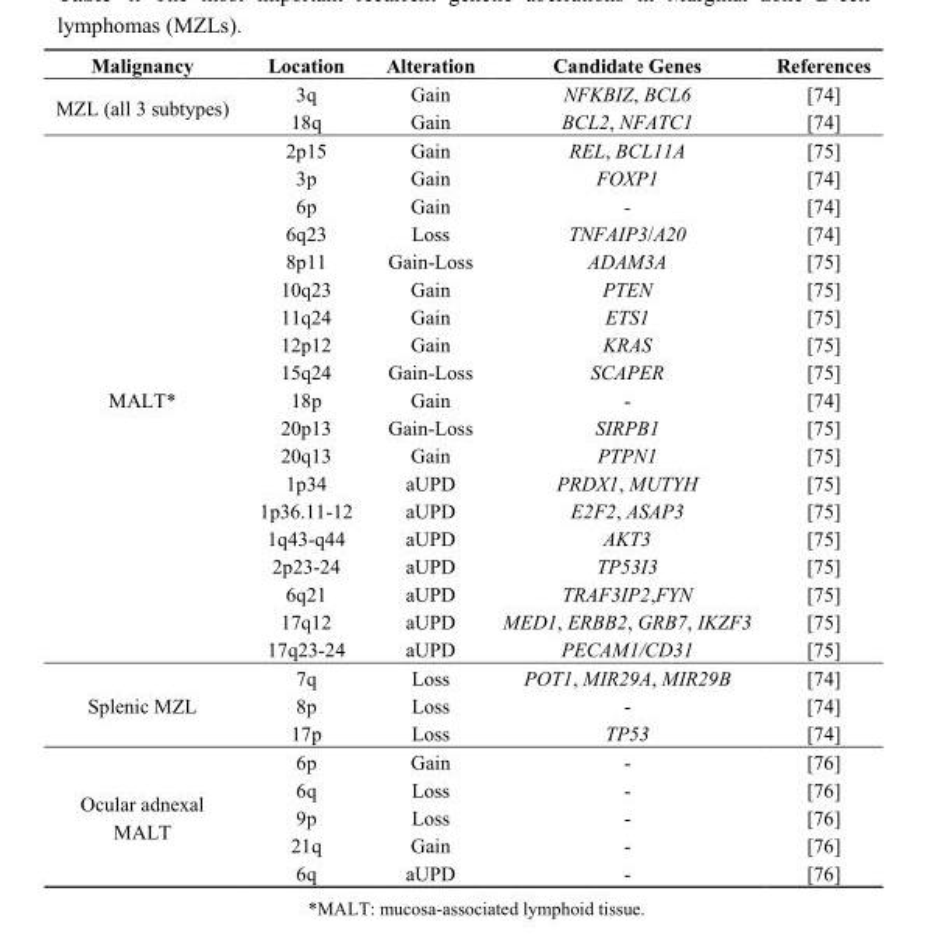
<table><thead><tr><td>Malignancy</td><td>Location</td><td>Alteration</td><td>Candidate Genes</td><td>References</td></tr></thead><tbody><tr><td rowspan="2">MZL (all 3 subtypes)</td><td>3q</td><td>Gain</td><td>NFKBIZ, BCL6</td><td>[74]</td></tr><tr><td>18q</td><td>Gain</td><td>BCL2, NFATC1</td><td>[74]</td></tr><tr><td rowspan="19">MALT*</td><td>2p15</td><td>Gain</td><td>REL, BCL11A</td><td>[75]</td></tr><tr><td>3p</td><td>Gain</td><td>FOXP1</td><td>[74]</td></tr><tr><td>6p</td><td>Gain</td><td>-</td><td>[74]</td></tr><tr><td>6q23</td><td>Loss</td><td>TNFAIP3/A20</td><td>[74]</td></tr><tr><td>8p11</td><td>Gain-Loss</td><td>ADAM3A</td><td>[75]</td></tr><tr><td>10q23</td><td>Gain</td><td>PTEN</td><td>[75]</td></tr><tr><td>11q24</td><td>Gain</td><td>ETS1</td><td>[75]</td></tr><tr><td>12p12</td><td>Gain</td><td>KRAS</td><td>[75]</td></tr><tr><td>15q24</td><td>Gain-Loss</td><td>SCAPER</td><td>[75]</td></tr><tr><td>18p</td><td>Gain</td><td>-</td><td>[74]</td></tr><tr><td>20p13</td><td>Gain-Loss</td><td>SIRPB1</td><td>[75]</td></tr><tr><td>20q13</td><td>Gain</td><td>PTPN1</td><td>[75]</td></tr><tr><td>1p34</td><td>aUPD</td><td>PRDX1, MUTYH</td><td>[75]</td></tr><tr><td>1p36.11-12</td><td>aUPD</td><td>E2F2, ASAP3</td><td>[75]</td></tr><tr><td>1q43-q44</td><td>aUPD</td><td>AKT3</td><td>[75]</td></tr><tr><td>2p23-24</td><td>aUPD</td><td>TP53I3</td><td>[75]</td></tr><tr><td>6q21</td><td>aUPD</td><td>TRAF3IP2,FYN</td><td>[75]</td></tr><tr><td>17q12</td><td>aUPD</td><td>MED1, ERBB2, GRB7, IKZF3</td><td>[75]</td></tr><tr><td>17q23-24</td><td>aUPD</td><td>PECAM1/CD31</td><td>[75]</td></tr><tr><td rowspan="3">Splenic MZL</td><td>7q</td><td>Loss</td><td>POT1, MIR29A, MIR29B</td><td>[74]</td></tr><tr><td>8p</td><td>Loss</td><td>-</td><td>[74]</td></tr><tr><td>17p</td><td>Loss</td><td>TP53</td><td>[74]</td></tr><tr><td rowspan="5">Ocular adnexal MALT</td><td>6p</td><td>Gain</td><td>-</td><td>[76]</td></tr><tr><td>6q</td><td>Loss</td><td>-</td><td>[76]</td></tr><tr><td>9p</td><td>Loss</td><td>-</td><td>[76]</td></tr><tr><td>21q</td><td>Gain</td><td>-</td><td>[76]</td></tr><tr><td>6q</td><td>aUPD</td><td>-</td><td>[76]</td></tr></tbody></table>